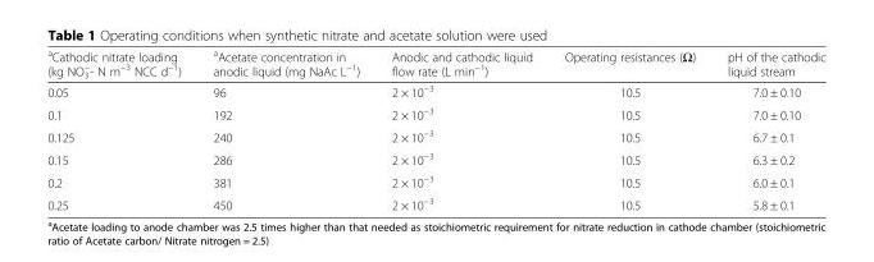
<table><thead><tr><td><sup>a</sup>Cathodic nitrate loading (kg NO<sub>3</sub> <sup>−</sup>- N m<sup>−3</sup> NCC d<sup>−1</sup>)</td><td><sup>a</sup>Acetate concentration in anodic liquid (mg NaAc L<sup>−1</sup>)</td><td>Anodic and cathodic liquid flow rate (L min<sup>−1</sup>)</td><td>Operating resistances (Ω)</td><td>pH of the cathodic liquid stream</td></tr></thead><tbody><tr><td>0.05</td><td>96</td><td>2 × 10<sup>−3</sup></td><td>10.5</td><td>7.0 ± 0.10</td></tr><tr><td>0.1</td><td>192</td><td>2 × 10<sup>−3</sup></td><td>10.5</td><td>7.0 ± 0.10</td></tr><tr><td>0.125</td><td>240</td><td>2 × 10<sup>−3</sup></td><td>10.5</td><td>6.7 ± 0.1</td></tr><tr><td>0.15</td><td>286</td><td>2 × 10<sup>−3</sup></td><td>10.5</td><td>6.3 ± 0.2</td></tr><tr><td>0.2</td><td>381</td><td>2 × 10<sup>−3</sup></td><td>10.5</td><td>6.0 ± 0.1</td></tr><tr><td>0.25</td><td>450</td><td>2 × 10<sup>−3</sup></td><td>10.5</td><td>5.8 ± 0.1</td></tr></tbody></table>